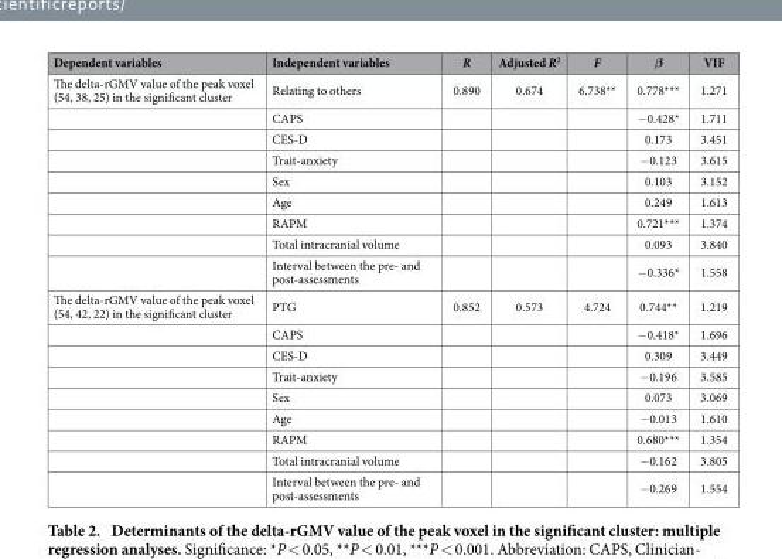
<table><thead><tr><td>Dependent variables</td><td>Independent variables</td><td>R</td><td>Adjusted R<sup>2</sup></td><td>F</td><td>β</td><td>VIF</td></tr></thead><tbody><tr><td rowspan="9">The delta-rGMV value of the peak voxel (54, 38, 25) in the significant cluster</td><td>Relating to others</td><td>0.890</td><td>0.674</td><td>6.738**</td><td>0.778***</td><td>1.271</td></tr><tr><td>CAPS</td><td></td><td></td><td></td><td>− 0.428*</td><td>1.711</td></tr><tr><td>CES-D</td><td></td><td></td><td></td><td>0.173</td><td>3.451</td></tr><tr><td>Trait-anxiety</td><td></td><td></td><td></td><td>− 0.123</td><td>3.615</td></tr><tr><td>Sex</td><td></td><td></td><td></td><td>0.103</td><td>3.152</td></tr><tr><td>Age</td><td></td><td></td><td></td><td>0.249</td><td>1.613</td></tr><tr><td>RAPM</td><td></td><td></td><td></td><td>0.721***</td><td>1.374</td></tr><tr><td>Total intracranial volume</td><td></td><td></td><td></td><td>0.093</td><td>3.840</td></tr><tr><td>Interval between the pre- and post-assessments</td><td></td><td></td><td></td><td>− 0.336*</td><td>1.558</td></tr><tr><td rowspan="9">The delta-rGMV value of the peak voxel (54, 42, 22) in the significant cluster</td><td>PTG</td><td>0.852</td><td>0.573</td><td>4.724</td><td>0.744**</td><td>1.219</td></tr><tr><td>CAPS</td><td></td><td></td><td></td><td>− 0.418*</td><td>1.696</td></tr><tr><td>CES-D</td><td></td><td></td><td></td><td>0.309</td><td>3.449</td></tr><tr><td>Trait-anxiety</td><td></td><td></td><td></td><td>− 0.196</td><td>3.585</td></tr><tr><td>Sex</td><td></td><td></td><td></td><td>0.073</td><td>3.069</td></tr><tr><td>Age</td><td></td><td></td><td></td><td>− 0.013</td><td>1.610</td></tr><tr><td>RAPM</td><td></td><td></td><td></td><td>0.680***</td><td>1.354</td></tr><tr><td>Total intracranial volume</td><td></td><td></td><td></td><td>− 0.162</td><td>3.805</td></tr><tr><td>Interval between the pre- and post-assessments</td><td></td><td></td><td></td><td>− 0.269</td><td>1.554</td></tr></tbody></table>